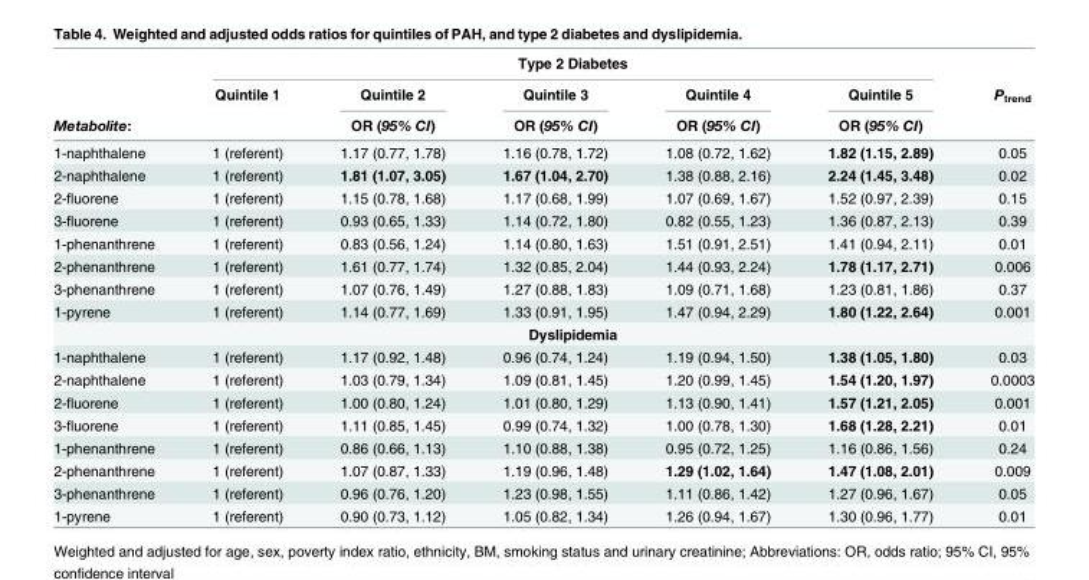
<table><thead><tr><td rowspan="3">Metabolite:</td><td colspan="5">Type 2 Diabetes</td><td rowspan="3">P<sub>trend</sub></td></tr><tr><td rowspan="2">Quintile 1</td><td rowspan="2">Quintile 2 OR (95% CI)</td><td rowspan="2">Quintile 3 OR (95% CI)</td><td rowspan="2">Quintile 4 OR (95% CI)</td><td rowspan="2">Quintile 5 OR (95% CI)</td></tr><tr></tr></thead><tbody><tr><td>1-naphthalene</td><td>1 (referent)</td><td>1.17 (0.77, 1.78)</td><td>1.16 (0.78, 1.72)</td><td>1.08 (0.72, 1.62)</td><td>1.82 (1.15, 2.89)</td><td>0.05</td></tr><tr><td>2-naphthalene</td><td>1 (referent)</td><td>1.81 (1.07, 3.05)</td><td>1.67 (1.04, 2.70)</td><td>1.38 (0.88, 2.16)</td><td>2.24 (1.45, 3.48)</td><td>0.02</td></tr><tr><td>2-fluorene</td><td>1 (referent)</td><td>1.15 (0.78, 1.68)</td><td>1.17 (0.68, 1.99)</td><td>1.07 (0.69, 1.67)</td><td>1.52 (0.97, 2.39)</td><td>0.15</td></tr><tr><td>3-fluorene</td><td>1 (referent)</td><td>0.93 (0.65, 1.33)</td><td>1.14 (0.72, 1.80)</td><td>0.82 (0.55, 1.23)</td><td>1.36 (0.87, 2.13)</td><td>0.39</td></tr><tr><td>1-phenanthrene</td><td>1 (referent)</td><td>0.83 (0.56, 1.24)</td><td>1.14 (0.80, 1.63)</td><td>1.51 (0.91, 2.51)</td><td>1.41 (0.94, 2.11)</td><td>0.01</td></tr><tr><td>2-phenanthrene</td><td>1 (referent)</td><td>1.61 (0.77, 1.74)</td><td>1.32 (0.85, 2.04)</td><td>1.44 (0.93, 2.24)</td><td>1.78 (1.17, 2.71)</td><td>0.006</td></tr><tr><td>3-phenanthrene</td><td>1 (referent)</td><td>1.07 (0.76, 1.49)</td><td>1.27 (0.88, 1.83)</td><td>1.09 (0.71, 1.68)</td><td>1.23 (0.81, 1.86)</td><td>0.37</td></tr><tr><td rowspan="2">1-pyrene</td><td>1 (referent)</td><td>1.14 (0.77, 1.69)</td><td>1.33 (0.91, 1.95)</td><td>1.47 (0.94, 2.29)</td><td>1.80 (1.22, 2.64)</td><td>0.001</td></tr><tr><td colspan="5">Dyslipidemia</td><td></td></tr><tr><td>1-naphthalene</td><td>1 (referent)</td><td>1.17 (0.92, 1.48)</td><td>0.96 (0.74, 1.24)</td><td>1.19 (0.94, 1.50)</td><td>1.38 (1.05, 1.80)</td><td>0.03</td></tr><tr><td>2-naphthalene</td><td>1 (referent)</td><td>1.03 (0.79, 1.34)</td><td>1.09 (0.81, 1.45)</td><td>1.20 (0.99, 1.45)</td><td>1.54 (1.20, 1.97)</td><td>0.0003</td></tr><tr><td>2-fluorene</td><td>1 (referent)</td><td>1.00 (0.80, 1.24)</td><td>1.01 (0.80, 1.29)</td><td>1.13 (0.90, 1.41)</td><td>1.57 (1.21, 2.05)</td><td>0.001</td></tr><tr><td>3-fluorene</td><td>1 (referent)</td><td>1.11 (0.85, 1.45)</td><td>0.99 (0.74, 1.32)</td><td>1.00 (0.78, 1.30)</td><td>1.68 (1.28, 2.21)</td><td>0.01</td></tr><tr><td>1-phenanthrene</td><td>1 (referent)</td><td>0.86 (0.66, 1.13)</td><td>1.10 (0.88, 1.38)</td><td>0.95 (0.72, 1.25)</td><td>1.16 (0.86, 1.56)</td><td>0.24</td></tr><tr><td>2-phenanthrene</td><td>1 (referent)</td><td>1.07 (0.87, 1.33)</td><td>1.19 (0.96, 1.48)</td><td>1.29 (1.02, 1.64)</td><td>1.47 (1.08, 2.01)</td><td>0.009</td></tr><tr><td>3-phenanthrene</td><td>1 (referent)</td><td>0.96 (0.76, 1.20)</td><td>1.23 (0.98, 1.55)</td><td>1.11 (0.86, 1.42)</td><td>1.27 (0.96, 1.67)</td><td>0.05</td></tr><tr><td>1-pyrene</td><td>1 (referent)</td><td>0.90 (0.73, 1.12)</td><td>1.05 (0.82, 1.34)</td><td>1.26 (0.94, 1.67)</td><td>1.30 (0.96, 1.77)</td><td>0.01</td></tr></tbody></table>